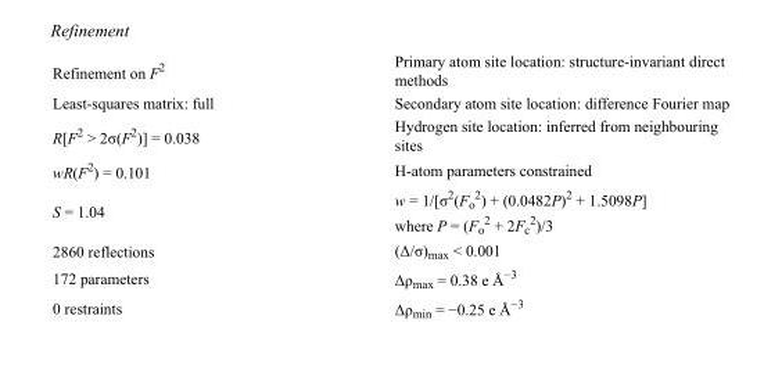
<table><tbody><tr><td>Refinement on F<sup>2</sup></td><td>Primary atom site location: structure-invariant direct methods</td></tr><tr><td>Least-squares matrix: full</td><td>Secondary atom site location: difference Fourier map</td></tr><tr><td>R[F<sup>2</sup> &gt; 2σ(F<sup>2</sup>)] = 0.038</td><td>Hydrogen site location: inferred from neighbouring sites</td></tr><tr><td>wR(F<sup>2</sup>) = 0.101</td><td>H-atom parameters constrained</td></tr><tr><td>S = 1.04</td><td>w = 1/[σ<sup>2</sup>(F<sub>o</sub> <sup>2</sup>) + (0.0482P)<sup>2</sup> + 1.5098P] where P = (F<sub>o</sub> <sup>2</sup> + 2F<sub>c</sub> <sup>2</sup>)/3</td></tr><tr><td>2860 reflections</td><td>(Δ/σ)<sub>max</sub> &lt; 0.001</td></tr><tr><td>172 parameters</td><td>Δρ<sub>max</sub> = 0.38 e Å<sup>−3</sup></td></tr><tr><td>0 restraints</td><td>Δρ<sub>min</sub> = −0.25 e Å<sup>−3</sup></td></tr></tbody></table>